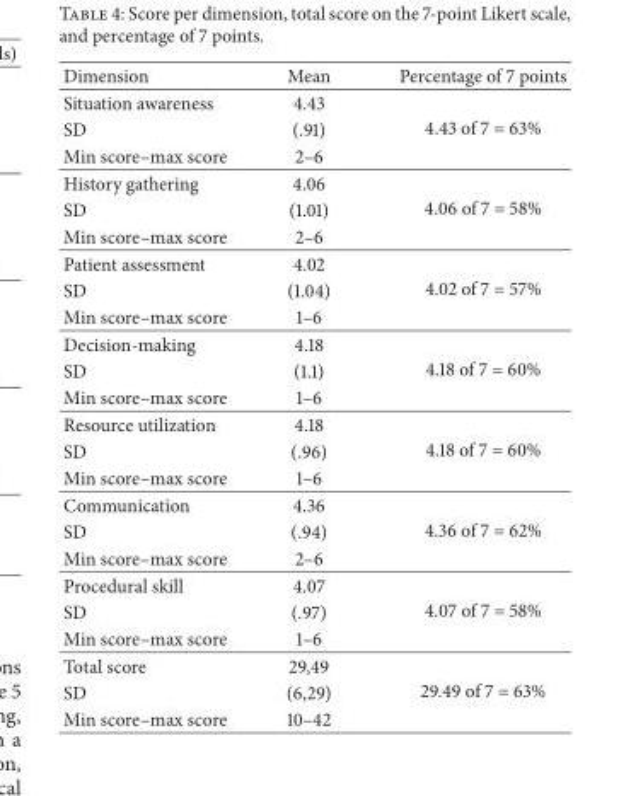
<table><thead><tr><td>Dimension</td><td>Mean</td><td>Percentage of 7 points</td></tr></thead><tbody><tr><td>Situation awareness</td><td>4.43</td><td rowspan="3">4.43 of 7 = 63%</td></tr><tr><td>SD</td><td>(.91)</td></tr><tr><td>Min score–max score</td><td>2–6</td></tr><tr><td>History gathering</td><td>4.06</td><td rowspan="3">4.06 of 7 = 58%</td></tr><tr><td>SD</td><td>(1.01)</td></tr><tr><td>Min score–max score</td><td>2–6</td></tr><tr><td>Patient assessment</td><td>4.02</td><td rowspan="3">4.02 of 7 = 57%</td></tr><tr><td>SD</td><td>(1.04)</td></tr><tr><td>Min score–max score</td><td>1–6</td></tr><tr><td>Decision-making</td><td>4.18</td><td rowspan="3">4.18 of 7 = 60%</td></tr><tr><td>SD</td><td>(1.1)</td></tr><tr><td>Min score–max score</td><td>1–6</td></tr><tr><td>Resource utilization</td><td>4.18</td><td rowspan="3">4.18 of 7 = 60%</td></tr><tr><td>SD</td><td>(.96)</td></tr><tr><td>Min score–max score</td><td>1–6</td></tr><tr><td>Communication</td><td>4.36</td><td rowspan="3">4.36 of 7 = 62%</td></tr><tr><td>SD</td><td>(.94)</td></tr><tr><td>Min score–max score</td><td>2–6</td></tr><tr><td>Procedural skill</td><td>4.07</td><td rowspan="3">4.07 of 7 = 58%</td></tr><tr><td>SD</td><td>(.97)</td></tr><tr><td>Min score–max score</td><td>1–6</td></tr><tr><td>Total score</td><td>29,49</td><td rowspan="3">29.49 of 7 = 63%</td></tr><tr><td>SD</td><td>(6,29)</td></tr><tr><td>Min score–max score</td><td>10–42</td></tr></tbody></table>